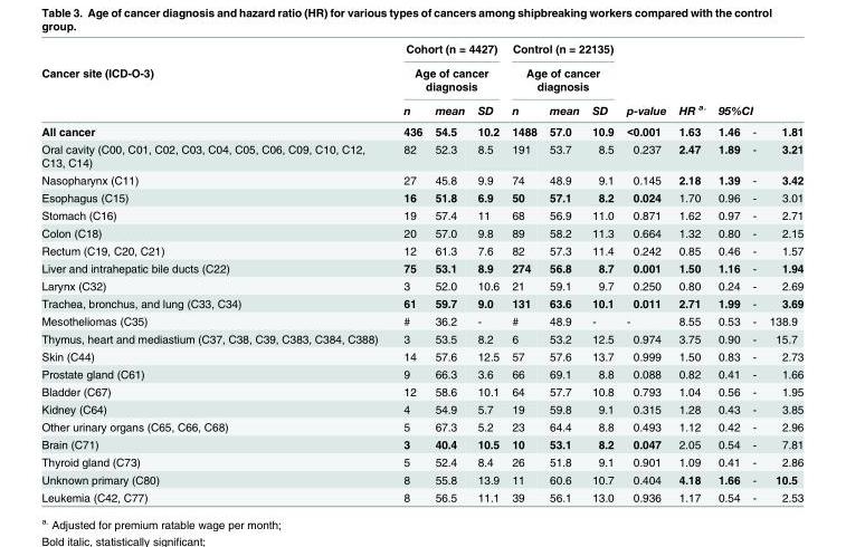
<table><thead><tr><td rowspan="3">Cancer site (ICD-O-3)</td><td rowspan="2" colspan="3">Cohort (n = 4427) Age of cancer diagnosis</td><td rowspan="2" colspan="3">Control (n = 22135) Age of cancer diagnosis</td><td rowspan="3">p-value</td><td rowspan="3">HR <sup>a.</sup></td><td rowspan="2"></td><td rowspan="2"></td><td rowspan="2"></td></tr><tr></tr><tr><td>n</td><td>mean</td><td>SD</td><td>n</td><td>mean</td><td>SD</td><td colspan="3">95%CI</td></tr></thead><tbody><tr><td>All cancer</td><td>436</td><td>54.5</td><td>10.2</td><td>1488</td><td>57.0</td><td>10.9</td><td>&lt;0.001</td><td>1.63</td><td>1.46</td><td>-</td><td>1.81</td></tr><tr><td>Oral cavity (C00, C01, C02, C03, C04, C05, C06, C09, C10, C12, C13, C14)</td><td>82</td><td>52.3</td><td>8.5</td><td>191</td><td>53.7</td><td>8.5</td><td>0.237</td><td>2.47</td><td>1.89</td><td>-</td><td>3.21</td></tr><tr><td>Nasopharynx (C11)</td><td>27</td><td>45.8</td><td>9.9</td><td>74</td><td>48.9</td><td>9.1</td><td>0.145</td><td>2.18</td><td>1.39</td><td>-</td><td>3.42</td></tr><tr><td>Esophagus (C15)</td><td>16</td><td>51.8</td><td>6.9</td><td>50</td><td>57.1</td><td>8.2</td><td>0.024</td><td>1.70</td><td>0.96</td><td>-</td><td>3.01</td></tr><tr><td>Stomach (C16)</td><td>19</td><td>57.4</td><td>11</td><td>68</td><td>56.9</td><td>11.0</td><td>0.871</td><td>1.62</td><td>0.97</td><td>-</td><td>2.71</td></tr><tr><td>Colon (C18)</td><td>20</td><td>57.0</td><td>9.8</td><td>89</td><td>58.2</td><td>11.3</td><td>0.664</td><td>1.32</td><td>0.80</td><td>-</td><td>2.15</td></tr><tr><td>Rectum (C19, C20, C21)</td><td>12</td><td>61.3</td><td>7.6</td><td>82</td><td>57.3</td><td>11.4</td><td>0.242</td><td>0.85</td><td>0.46</td><td>-</td><td>1.57</td></tr><tr><td>Liver and intrahepatic bile ducts (C22)</td><td>75</td><td>53.1</td><td>8.9</td><td>274</td><td>56.8</td><td>8.7</td><td>0.001</td><td>1.50</td><td>1.16</td><td>-</td><td>1.94</td></tr><tr><td>Larynx (C32)</td><td>3</td><td>52.0</td><td>10.6</td><td>21</td><td>59.1</td><td>9.7</td><td>0.250</td><td>0.80</td><td>0.24</td><td>-</td><td>2.69</td></tr><tr><td>Trachea, bronchus, and lung (C33, C34)</td><td>61</td><td>59.7</td><td>9.0</td><td>131</td><td>63.6</td><td>10.1</td><td>0.011</td><td>2.71</td><td>1.99</td><td>-</td><td>3.69</td></tr><tr><td>Mesotheliomas (C35)</td><td>#</td><td>36.2</td><td>-</td><td>#</td><td>48.9</td><td>-</td><td>-</td><td>8.55</td><td>0.53</td><td>-</td><td>138.9</td></tr><tr><td>Thymus, heart and mediastium (C37, C38, C39, C383, C384, C388)</td><td>3</td><td>53.5</td><td>8.2</td><td>6</td><td>53.2</td><td>12.5</td><td>0.974</td><td>3.75</td><td>0.90</td><td>-</td><td>15.7</td></tr><tr><td>Skin (C44)</td><td>14</td><td>57.6</td><td>12.5</td><td>57</td><td>57.6</td><td>13.7</td><td>0.999</td><td>1.50</td><td>0.83</td><td>-</td><td>2.73</td></tr><tr><td>Prostate gland (C61)</td><td>9</td><td>66.3</td><td>3.6</td><td>66</td><td>69.1</td><td>8.8</td><td>0.088</td><td>0.82</td><td>0.41</td><td>-</td><td>1.66</td></tr><tr><td>Bladder (C67)</td><td>12</td><td>58.6</td><td>10.1</td><td>64</td><td>57.7</td><td>10.8</td><td>0.793</td><td>1.04</td><td>0.56</td><td>-</td><td>1.95</td></tr><tr><td>Kidney (C64)</td><td>4</td><td>54.9</td><td>5.7</td><td>19</td><td>59.8</td><td>9.1</td><td>0.315</td><td>1.28</td><td>0.43</td><td>-</td><td>3.85</td></tr><tr><td>Other urinary organs (C65, C66, C68)</td><td>5</td><td>67.3</td><td>5.2</td><td>23</td><td>64.4</td><td>8.8</td><td>0.493</td><td>1.12</td><td>0.42</td><td>-</td><td>2.96</td></tr><tr><td>Brain (C71)</td><td>3</td><td>40.4</td><td>10.5</td><td>10</td><td>53.1</td><td>8.2</td><td>0.047</td><td>2.05</td><td>0.54</td><td>-</td><td>7.81</td></tr><tr><td>Thyroid gland (C73)</td><td>5</td><td>52.4</td><td>8.4</td><td>26</td><td>51.8</td><td>9.1</td><td>0.901</td><td>1.09</td><td>0.41</td><td>-</td><td>2.86</td></tr><tr><td>Unknown primary (C80)</td><td>8</td><td>55.8</td><td>13.9</td><td>11</td><td>60.6</td><td>10.7</td><td>0.404</td><td>4.18</td><td>1.66</td><td>-</td><td>10.5</td></tr><tr><td>Leukemia (C42, C77)</td><td>8</td><td>56.5</td><td>11.1</td><td>39</td><td>56.1</td><td>13.0</td><td>0.936</td><td>1.17</td><td>0.54</td><td>-</td><td>2.53</td></tr></tbody></table>